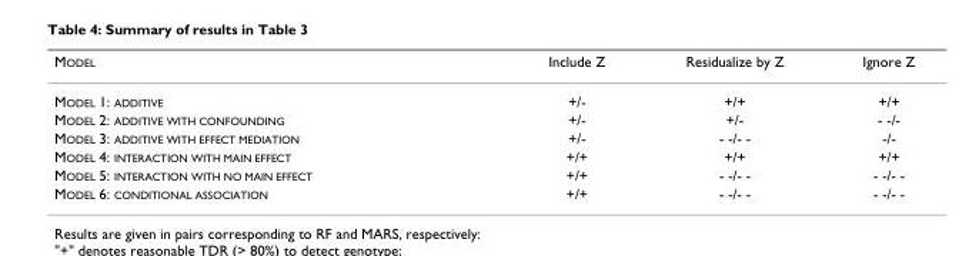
<table><thead><tr><td>MODEL</td><td>Include Z</td><td>Residualize by Z</td><td>Ignore Z</td></tr></thead><tbody><tr><td>MODEL 1: ADDITIVE</td><td>+/-</td><td>+/+</td><td>+/+</td></tr><tr><td>MODEL 2: ADDITIVE WITH CONFOUNDING</td><td>+/-</td><td>+/-</td><td>- -/-</td></tr><tr><td>MODEL 3: ADDITIVE WITH EFFECT MEDIATION</td><td>+/-</td><td>- -/- -</td><td>-/-</td></tr><tr><td>MODEL 4: INTERACTION WITH MAIN EFFECT</td><td>+/+</td><td>+/+</td><td>+/+</td></tr><tr><td>MODEL 5: INTERACTION WITH NO MAIN EFFECT</td><td>+/+</td><td>- -/- -</td><td>- -/- -</td></tr><tr><td>MODEL 6: CONDITIONAL ASSOCIATION</td><td>+/+</td><td>- -/- -</td><td>- -/- -</td></tr></tbody></table>